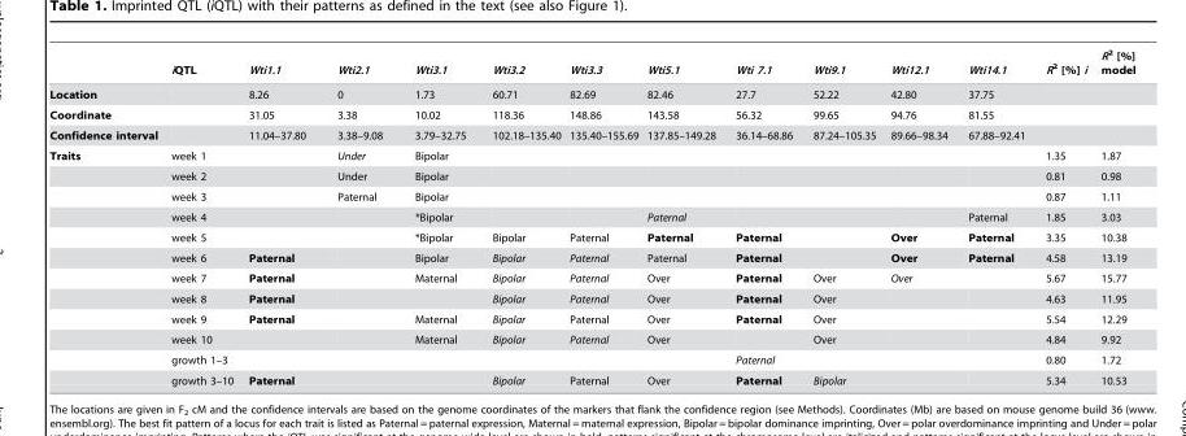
<table><thead><tr><td></td><td>iQTL</td><td>Wti1.1</td><td>Wti2.1</td><td>Wti3.1</td><td>Wti3.2</td><td>Wti3.3</td><td>Wti5.1</td><td>Wti 7.1</td><td>Wti9.1</td><td>Wti12.1</td><td>Wti14.1</td><td>R<sup>2</sup> [%] i</td><td>R<sup>2</sup> [%] model</td></tr></thead><tbody><tr><td>Location</td><td></td><td>8.26</td><td>0</td><td>1.73</td><td>60.71</td><td>82.69</td><td>82.46</td><td>27.7</td><td>52.22</td><td>42.80</td><td>37.75</td><td></td><td></td></tr><tr><td>Coordinate</td><td></td><td>31.05</td><td>3.38</td><td>10.02</td><td>118.36</td><td>148.86</td><td>143.58</td><td>56.32</td><td>99.65</td><td>94.76</td><td>81.55</td><td></td><td></td></tr><tr><td>Confidence interval</td><td></td><td>11.04–37.80</td><td>3.38–9.08</td><td>3.79–32.75</td><td>102.18–135.40</td><td>135.40–155.69</td><td>137.85–149.28</td><td>36.14–68.86</td><td>87.24–105.35</td><td>89.66–98.34</td><td>67.88–92.41</td><td></td><td></td></tr><tr><td rowspan="12">Traits</td><td>week 1</td><td></td><td>Under</td><td>Bipolar</td><td></td><td></td><td></td><td></td><td></td><td></td><td></td><td>1.35</td><td>1.87</td></tr><tr><td>week 2</td><td></td><td>Under</td><td>Bipolar</td><td></td><td></td><td></td><td></td><td></td><td></td><td></td><td>0.81</td><td>0.98</td></tr><tr><td>week 3</td><td></td><td>Paternal</td><td>Bipolar</td><td></td><td></td><td></td><td></td><td></td><td></td><td></td><td>0.87</td><td>1.11</td></tr><tr><td>week 4</td><td></td><td></td><td>*Bipolar</td><td></td><td></td><td>Paternal</td><td></td><td></td><td></td><td>Paternal</td><td>1.85</td><td>3.03</td></tr><tr><td>week 5</td><td></td><td></td><td>*Bipolar</td><td>Bipolar</td><td>Paternal</td><td>Paternal</td><td>Paternal</td><td></td><td>Over</td><td>Paternal</td><td>3.35</td><td>10.38</td></tr><tr><td>week 6</td><td>Paternal</td><td></td><td>Bipolar</td><td>Bipolar</td><td>Paternal</td><td>Paternal</td><td>Paternal</td><td></td><td>Over</td><td>Paternal</td><td>4.58</td><td>13.19</td></tr><tr><td>week 7</td><td>Paternal</td><td></td><td>Maternal</td><td>Bipolar</td><td>Paternal</td><td>Over</td><td>Paternal</td><td>Over</td><td>Over</td><td></td><td>5.67</td><td>15.77</td></tr><tr><td>week 8</td><td>Paternal</td><td></td><td></td><td>Bipolar</td><td>Paternal</td><td>Over</td><td>Paternal</td><td>Over</td><td></td><td></td><td>4.63</td><td>11.95</td></tr><tr><td>week 9</td><td>Paternal</td><td></td><td>Maternal</td><td>Bipolar</td><td>Paternal</td><td>Over</td><td>Paternal</td><td>Over</td><td></td><td></td><td>5.54</td><td>12.29</td></tr><tr><td>week 10</td><td></td><td></td><td>Maternal</td><td>Bipolar</td><td>Paternal</td><td>Over</td><td></td><td>Over</td><td></td><td></td><td>4.84</td><td>9.92</td></tr><tr><td>growth 1–3</td><td></td><td></td><td></td><td></td><td></td><td></td><td>Paternal</td><td></td><td></td><td></td><td>0.80</td><td>1.72</td></tr><tr><td>growth 3–10</td><td>Paternal</td><td></td><td></td><td>Bipolar</td><td>Paternal</td><td>Over</td><td>Paternal</td><td>Bipolar</td><td></td><td></td><td>5.34</td><td>10.53</td></tr></tbody></table>